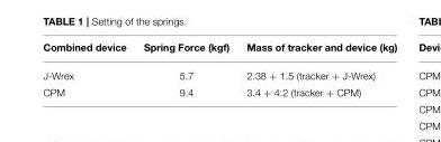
<table><thead><tr><td>Combined device</td><td>Spring Force (kgf)</td><td>Mass of tracker and device (kg)</td></tr></thead><tbody><tr><td>J-Wrex</td><td>5.7</td><td>2.38 + 1.5 (tracker + J-Wrex)</td></tr><tr><td>CPM</td><td>9.4</td><td>3.4 + 4.2 (tracker + CPM)</td></tr></tbody></table>